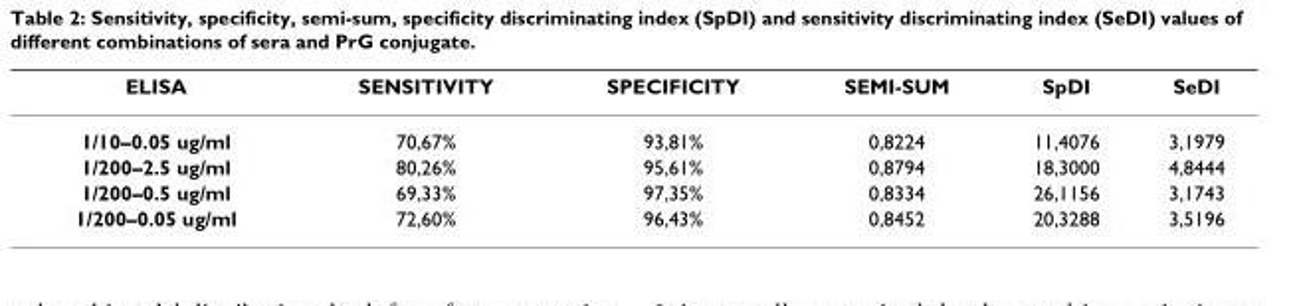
<table><thead><tr><td>ELISA</td><td>SENSITIVITY</td><td>SPECIFICITY</td><td>SEMI-SUM</td><td>SpDI</td><td>SeDI</td></tr></thead><tbody><tr><td>1/10–0.05 ug/ml</td><td>70,67%</td><td>93,81%</td><td>0,8224</td><td>11,4076</td><td>3,1979</td></tr><tr><td>1/200–2.5 ug/ml</td><td>80,26%</td><td>95,61%</td><td>0,8794</td><td>18,3000</td><td>4,8444</td></tr><tr><td>1/200–0.5 ug/ml</td><td>69,33%</td><td>97,35%</td><td>0,8334</td><td>26,1156</td><td>3,1743</td></tr><tr><td>1/200–0.05 ug/ml</td><td>72,60%</td><td>96,43%</td><td>0,8452</td><td>20,3288</td><td>3,5196</td></tr></tbody></table>